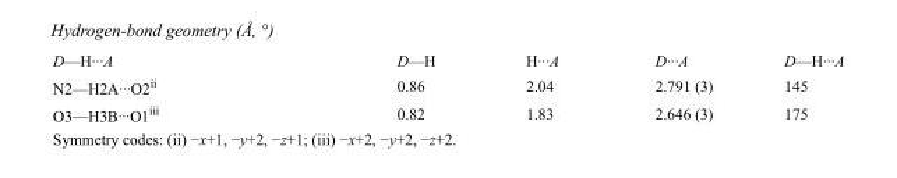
<table><tbody><tr><td>D—H···A</td><td>D—H</td><td>H···A</td><td>D···A</td><td>D—H···A</td></tr><tr><td>N2—H2A···O2<sup>ii</sup></td><td>0.86</td><td>2.04</td><td>2.791 (3)</td><td>145</td></tr><tr><td>O3—H3B···O1<sup>iii</sup></td><td>0.82</td><td>1.83</td><td>2.646 (3)</td><td>175</td></tr></tbody></table>